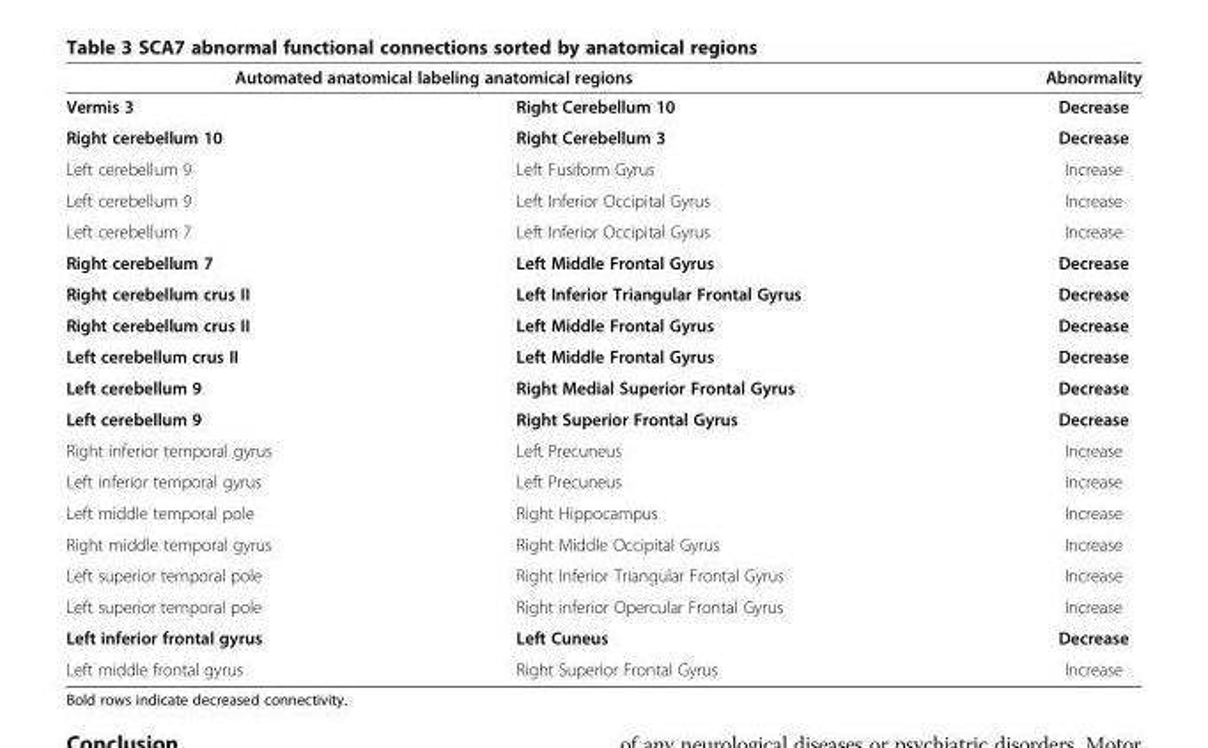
<table><thead><tr><td colspan="2">Automated anatomical labeling anatomical regions</td><td rowspan="2">Abnormality Decrease</td></tr><tr><td>Vermis 3</td><td>Right Cerebellum 10</td></tr></thead><tbody><tr><td>Right cerebellum 10</td><td>Right Cerebellum 3</td><td>Decrease</td></tr><tr><td>Left cerebellum 9</td><td>Left Fusiform Gyrus</td><td>Increase</td></tr><tr><td>Left cerebellum 9</td><td>Left Inferior Occipital Gyrus</td><td>Increase</td></tr><tr><td>Left cerebellum 7</td><td>Left Inferior Occipital Gyrus</td><td>Increase</td></tr><tr><td>Right cerebellum 7</td><td>Left Middle Frontal Gyrus</td><td>Decrease</td></tr><tr><td>Right cerebellum crus II</td><td>Left Inferior Triangular Frontal Gyrus</td><td>Decrease</td></tr><tr><td>Right cerebellum crus II</td><td>Left Middle Frontal Gyrus</td><td>Decrease</td></tr><tr><td>Left cerebellum crus II</td><td>Left Middle Frontal Gyrus</td><td>Decrease</td></tr><tr><td>Left cerebellum 9</td><td>Right Medial Superior Frontal Gyrus</td><td>Decrease</td></tr><tr><td>Left cerebellum 9</td><td>Right Superior Frontal Gyrus</td><td>Decrease</td></tr><tr><td>Right inferior temporal gyrus</td><td>Left Precuneus</td><td>Increase</td></tr><tr><td>Left inferior temporal gyrus</td><td>Left Precuneus</td><td>Increase</td></tr><tr><td>Left middle temporal pole</td><td>Right Hippocampus</td><td>Increase</td></tr><tr><td>Right middle temporal gyrus</td><td>Right Middle Occipital Gyrus</td><td>Increase</td></tr><tr><td>Left superior temporal pole</td><td>Right Inferior Triangular Frontal Gyrus</td><td>Increase</td></tr><tr><td>Left superior temporal pole</td><td>Right inferior Opercular Frontal Gyrus</td><td>Increase</td></tr><tr><td>Left inferior frontal gyrus</td><td>Left Cuneus</td><td>Decrease</td></tr><tr><td>Left middle frontal gyrus</td><td>Right Superior Frontal Gyrus</td><td>Increase</td></tr></tbody></table>